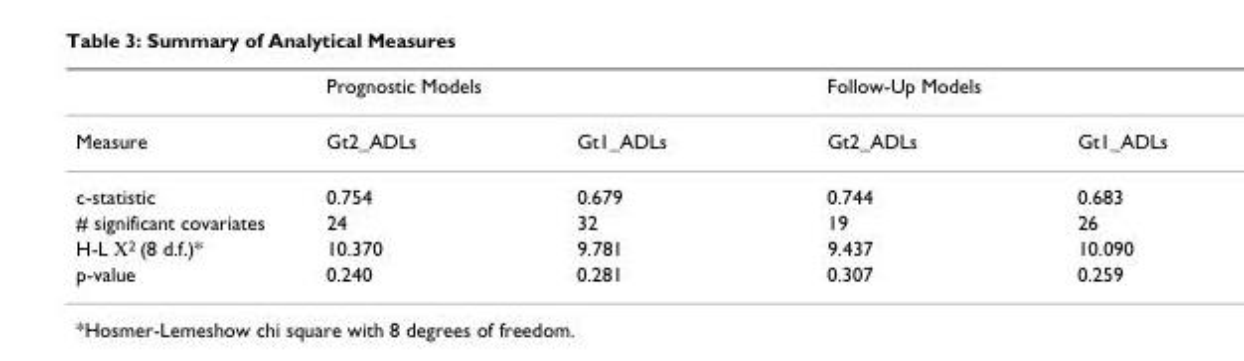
<table><thead><tr><td rowspan="2">Measure</td><td colspan="2">Prognostic Models</td><td colspan="2">Follow-Up Models</td></tr><tr><td>Gt2_ADLs</td><td>Gt1_ADLs</td><td>Gt2_ADLs</td><td>Gt1_ADLs</td></tr></thead><tbody><tr><td>c-statistic</td><td>0.754</td><td>0.679</td><td>0.744</td><td>0.683</td></tr><tr><td># significant covariates</td><td>24</td><td>32</td><td>19</td><td>26</td></tr><tr><td>H-L Χ2 (8 d.f.)*</td><td>10.370</td><td>9.781</td><td>9.437</td><td>10.090</td></tr><tr><td>p-value</td><td>0.240</td><td>0.281</td><td>0.307</td><td>0.259</td></tr></tbody></table>